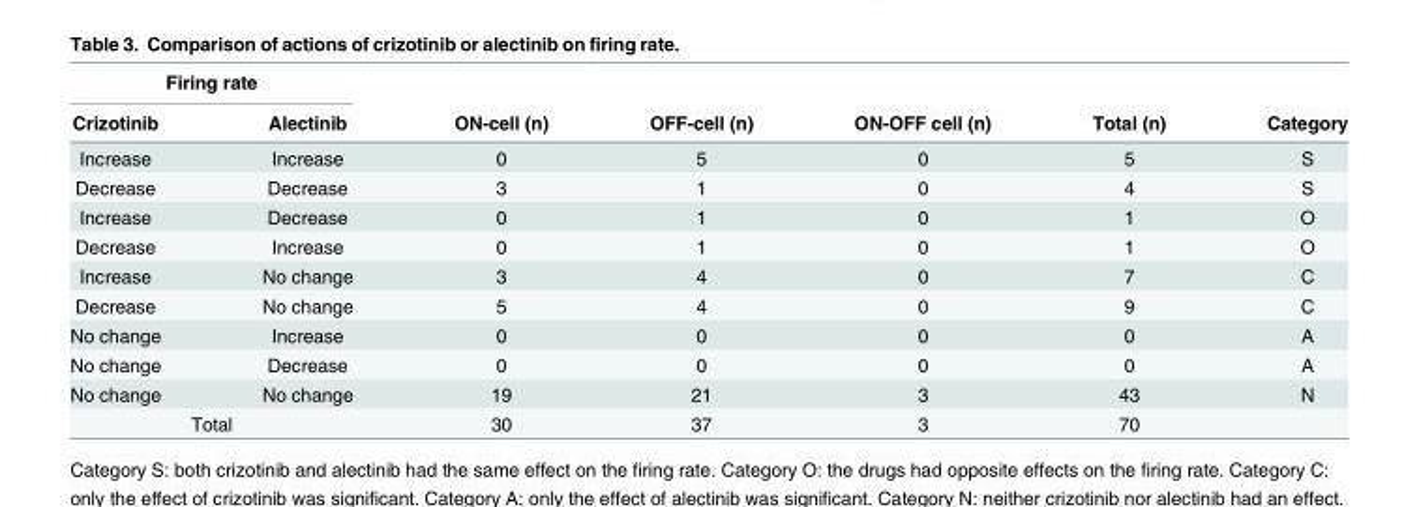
<table><thead><tr><td colspan="2">Firing rate</td><td rowspan="2">ON-cell (n)</td><td rowspan="2">OFF-cell (n)</td><td rowspan="2">ON-OFF cell (n)</td><td rowspan="2">Total (n)</td><td rowspan="2">Category</td></tr><tr><td>Crizotinib</td><td>Alectinib</td></tr></thead><tbody><tr><td>Increase</td><td>Increase</td><td>0</td><td>5</td><td>0</td><td>5</td><td>S</td></tr><tr><td>Decrease</td><td>Decrease</td><td>3</td><td>1</td><td>0</td><td>4</td><td>S</td></tr><tr><td>Increase</td><td>Decrease</td><td>0</td><td>1</td><td>0</td><td>1</td><td>O</td></tr><tr><td>Decrease</td><td>Increase</td><td>0</td><td>1</td><td>0</td><td>1</td><td>O</td></tr><tr><td>Increase</td><td>No change</td><td>3</td><td>4</td><td>0</td><td>7</td><td>C</td></tr><tr><td>Decrease</td><td>No change</td><td>5</td><td>4</td><td>0</td><td>9</td><td>C</td></tr><tr><td>No change</td><td>Increase</td><td>0</td><td>0</td><td>0</td><td>0</td><td>A</td></tr><tr><td>No change</td><td>Decrease</td><td>0</td><td>0</td><td>0</td><td>0</td><td>A</td></tr><tr><td>No change</td><td>No change</td><td>19</td><td>21</td><td>3</td><td>43</td><td>N</td></tr><tr><td colspan="2">Total</td><td>30</td><td>37</td><td>3</td><td>70</td><td></td></tr></tbody></table>